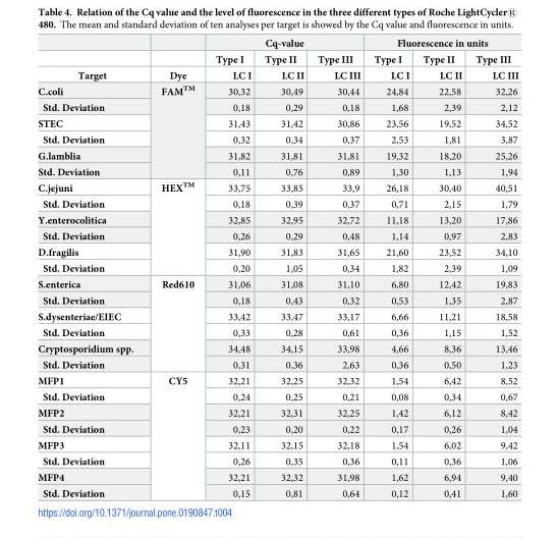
<table><thead><tr><td rowspan="3">Target</td><td rowspan="3">Dye</td><td colspan="3">Cq-value</td><td colspan="3">Fluorescence in units</td></tr><tr><td rowspan="2">Type I LC I</td><td rowspan="2">Type II LC II</td><td rowspan="2">Type III LC III</td><td rowspan="2">Type I LC I</td><td rowspan="2">Type II LC II</td><td rowspan="2">Type III LC III</td></tr><tr></tr></thead><tbody><tr><td>C.coli</td><td rowspan="6">FAM<sup>TM</sup></td><td>30,32</td><td>30,49</td><td>30,44</td><td>24,84</td><td>22,58</td><td>32,26</td></tr><tr><td>Std. Deviation</td><td>0,18</td><td>0,29</td><td>0,18</td><td>1,68</td><td>2,39</td><td>2,12</td></tr><tr><td>STEC</td><td>31,43</td><td>31,42</td><td>30,86</td><td>23,56</td><td>19,52</td><td>34,52</td></tr><tr><td>Std. Deviation</td><td>0,32</td><td>0,34</td><td>0,37</td><td>2,53</td><td>1,81</td><td>3,87</td></tr><tr><td>G.lamblia</td><td>31,82</td><td>31,81</td><td>31,81</td><td>19,32</td><td>18,20</td><td>25,26</td></tr><tr><td>Std. Deviation</td><td>0,11</td><td>0,76</td><td>0,89</td><td>1,30</td><td>1,13</td><td>1,94</td></tr><tr><td>C.jejuni</td><td rowspan="6">HEX<sup>TM</sup></td><td>33,75</td><td>33,85</td><td>33,9</td><td>26,18</td><td>30,40</td><td>40,51</td></tr><tr><td>Std. Deviation</td><td>0,18</td><td>0,39</td><td>0,37</td><td>0,71</td><td>2,15</td><td>1,79</td></tr><tr><td>Y.enterocolitica</td><td>32,85</td><td>32,95</td><td>32,72</td><td>11,18</td><td>13,20</td><td>17,86</td></tr><tr><td>Std. Deviation</td><td>0,26</td><td>0,29</td><td>0,48</td><td>1,14</td><td>0,97</td><td>2,83</td></tr><tr><td>D.fragilis</td><td>31,90</td><td>31,83</td><td>31,65</td><td>21,60</td><td>23,52</td><td>34,10</td></tr><tr><td>Std. Deviation</td><td>0,20</td><td>1,05</td><td>0,34</td><td>1,82</td><td>2,39</td><td>1,09</td></tr><tr><td>S.enterica</td><td rowspan="6">Red610</td><td>31,06</td><td>31,08</td><td>31,10</td><td>6,80</td><td>12,42</td><td>19,83</td></tr><tr><td>Std. Deviation</td><td>0,18</td><td>0,43</td><td>0,32</td><td>0,53</td><td>1,35</td><td>2,87</td></tr><tr><td>S.dysenteriae/EIEC</td><td>33,42</td><td>33,47</td><td>33,17</td><td>6,66</td><td>11,21</td><td>18,58</td></tr><tr><td>Std. Deviation</td><td>0,33</td><td>0,28</td><td>0,61</td><td>0,36</td><td>1,15</td><td>1,52</td></tr><tr><td>Cryptosporidium spp.</td><td>34,48</td><td>34,15</td><td>33,98</td><td>4,66</td><td>8,36</td><td>13,46</td></tr><tr><td>Std. Deviation</td><td>0,31</td><td>0,36</td><td>2,63</td><td>0,36</td><td>0,50</td><td>1,23</td></tr><tr><td>MFP1</td><td rowspan="8">CY5</td><td>32,21</td><td>32,25</td><td>32,32</td><td>1,54</td><td>6,42</td><td>8,52</td></tr><tr><td>Std. Deviation</td><td>0,24</td><td>0,25</td><td>0,21</td><td>0,08</td><td>0,34</td><td>0,67</td></tr><tr><td>MFP2</td><td>32,21</td><td>32,31</td><td>32,25</td><td>1,42</td><td>6,12</td><td>8,42</td></tr><tr><td>Std. Deviation</td><td>0,23</td><td>0,20</td><td>0,22</td><td>0,17</td><td>0,26</td><td>1,04</td></tr><tr><td>MFP3</td><td>32,11</td><td>32,15</td><td>32,18</td><td>1,54</td><td>6,02</td><td>9,42</td></tr><tr><td>Std. Deviation</td><td>0,26</td><td>0,35</td><td>0,36</td><td>0,11</td><td>0,36</td><td>1,06</td></tr><tr><td>MFP4</td><td>32,21</td><td>32,32</td><td>31,98</td><td>1,62</td><td>6,94</td><td>9,40</td></tr><tr><td>Std. Deviation</td><td>0,15</td><td>0,81</td><td>0,64</td><td>0,12</td><td>0,41</td><td>1,60</td></tr></tbody></table>